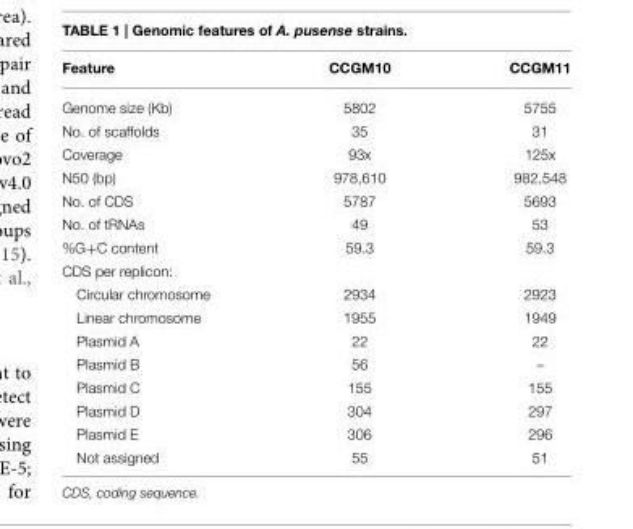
<table><thead><tr><td>Feature</td><td>CCGM10</td><td>CCGM11</td></tr></thead><tbody><tr><td>Genome size (Kb)</td><td>5802</td><td>5755</td></tr><tr><td>No. of scaffolds</td><td>35</td><td>31</td></tr><tr><td>Coverage</td><td>93x</td><td>125x</td></tr><tr><td>N50 (bp)</td><td>978,610</td><td>982,548</td></tr><tr><td>No. of CDS</td><td>5787</td><td>5693</td></tr><tr><td>No. of tRNAs</td><td>49</td><td>53</td></tr><tr><td>%G+C content</td><td>59.3</td><td>59.3</td></tr><tr><td colspan="3">CDS per replicon:</td></tr><tr><td>Circular chromosome</td><td>2934</td><td>2923</td></tr><tr><td>Linear chromosome</td><td>1955</td><td>1949</td></tr><tr><td>Plasmid A</td><td>22</td><td>22</td></tr><tr><td>Plasmid B</td><td>56</td><td>–</td></tr><tr><td>Plasmid C</td><td>155</td><td>155</td></tr><tr><td>Plasmid D</td><td>304</td><td>297</td></tr><tr><td>Plasmid E</td><td>306</td><td>296</td></tr><tr><td>Not assigned</td><td>55</td><td>51</td></tr></tbody></table>